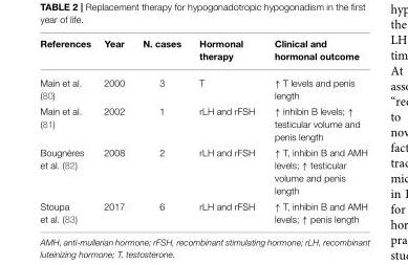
<table><thead><tr><td>References</td><td>Year</td><td>N. cases</td><td>Hormonal therapy</td><td>Clinical and hormonal outcome</td></tr></thead><tbody><tr><td>Main et al. (80)</td><td>2000</td><td>3</td><td>T</td><td>↑ T levels and penis length</td></tr><tr><td>Main et al. (81)</td><td>2002</td><td>1</td><td>rLH and rFSH</td><td>↑ inhibin B levels; ↑ testicular volume and penis length</td></tr><tr><td>Bougnères et al. (82)</td><td>2008</td><td>2</td><td>rLH and rFSH</td><td>↑ T, inhibin B and AMH levels; ↑ testicular volume and penis length</td></tr><tr><td>Stoupa et al. (83)</td><td>2017</td><td>6</td><td>rLH and rFSH</td><td>↑ T, inhibin B and AMH levels; ↑ penis length</td></tr></tbody></table>